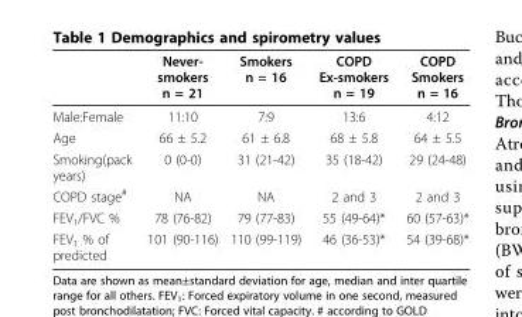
<table><thead><tr><td></td><td>Never- smokers n = 21</td><td>Smokers n = 16</td><td>COPD Ex-smokers n = 19</td><td>COPD Smokers n = 16</td></tr></thead><tbody><tr><td>Male:Female</td><td>11:10</td><td>7:9</td><td>13:6</td><td>4:12</td></tr><tr><td>Age</td><td>66 ± 5.2</td><td>61 ± 6.8</td><td>68 ± 5.8</td><td>64 ± 5.5</td></tr><tr><td>Smoking(pack years)</td><td>0 (0-0)</td><td>31 (21-42)</td><td>35 (18-42)</td><td>29 (24-48)</td></tr><tr><td>COPD stage<sup>#</sup></td><td>NA</td><td>NA</td><td>2 and 3</td><td>2 and 3</td></tr><tr><td>FEV<sub>1</sub>/FVC %</td><td>78 (76-82)</td><td>79 (77-83)</td><td>55 (49-64)*</td><td>60 (57-63)*</td></tr><tr><td>FEV<sub>1</sub> % of predicted</td><td>101 (90-116)</td><td>110 (99-119)</td><td>46 (36-53)*</td><td>54 (39-68)*</td></tr></tbody></table>